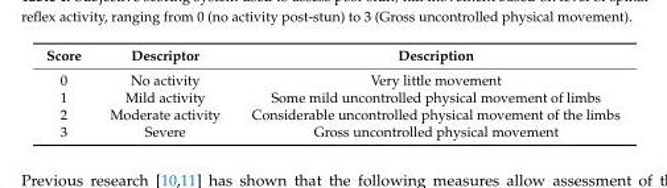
<table><thead><tr><td>Score</td><td>Descriptor</td><td>Description</td></tr></thead><tbody><tr><td>0</td><td>No activity</td><td>Very little movement</td></tr><tr><td>1</td><td>Mild activity</td><td>Some mild uncontrolled physical movement of limbs</td></tr><tr><td>2</td><td>Moderate activity</td><td>Considerable uncontrolled physical movement of the limbs</td></tr><tr><td>3</td><td>Severe</td><td>Gross uncontrolled physical movement</td></tr></tbody></table>